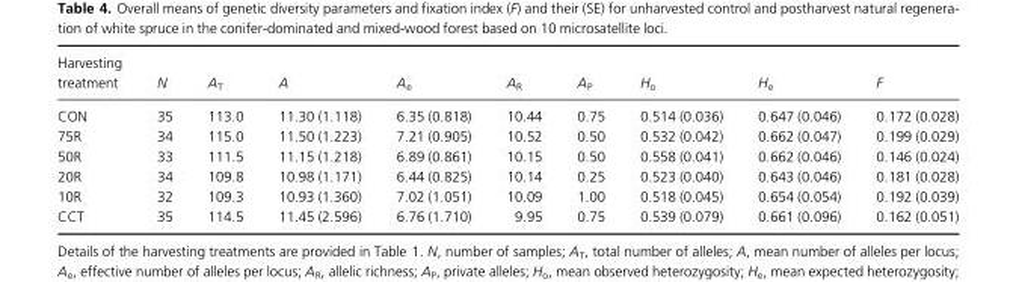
<table><thead><tr><td>Harvesting treatment</td><td>N</td><td>A<sub>T</sub></td><td>A</td><td>A<sub>e</sub></td><td>A<sub>R</sub></td><td>A<sub>P</sub></td><td>H<sub>o</sub></td><td>H<sub>e</sub></td><td>F</td></tr></thead><tbody><tr><td>CON</td><td>35</td><td>113.0</td><td>11.30 (1.118)</td><td>6.35 (0.818)</td><td>10.44</td><td>0.75</td><td>0.514 (0.036)</td><td>0.647 (0.046)</td><td>0.172 (0.028)</td></tr><tr><td>75R</td><td>34</td><td>115.0</td><td>11.50 (1.223)</td><td>7.21 (0.905)</td><td>10.52</td><td>0.50</td><td>0.532 (0.042)</td><td>0.662 (0.047)</td><td>0.199 (0.029)</td></tr><tr><td>50R</td><td>33</td><td>111.5</td><td>11.15 (1.218)</td><td>6.89 (0.861)</td><td>10.15</td><td>0.50</td><td>0.558 (0.041)</td><td>0.662 (0.046)</td><td>0.146 (0.024)</td></tr><tr><td>20R</td><td>34</td><td>109.8</td><td>10.98 (1.171)</td><td>6.44 (0.825)</td><td>10.14</td><td>0.25</td><td>0.523 (0.040)</td><td>0.643 (0.046)</td><td>0.181 (0.028)</td></tr><tr><td>10R</td><td>32</td><td>109.3</td><td>10.93 (1.360)</td><td>7.02 (1.051)</td><td>10.09</td><td>1.00</td><td>0.518 (0.045)</td><td>0.654 (0.054)</td><td>0.192 (0.039)</td></tr><tr><td>CCT</td><td>35</td><td>114.5</td><td>11.45 (2.596)</td><td>6.76 (1.710)</td><td>9.95</td><td>0.75</td><td>0.539 (0.079)</td><td>0.661 (0.096)</td><td>0.162 (0.051)</td></tr></tbody></table>